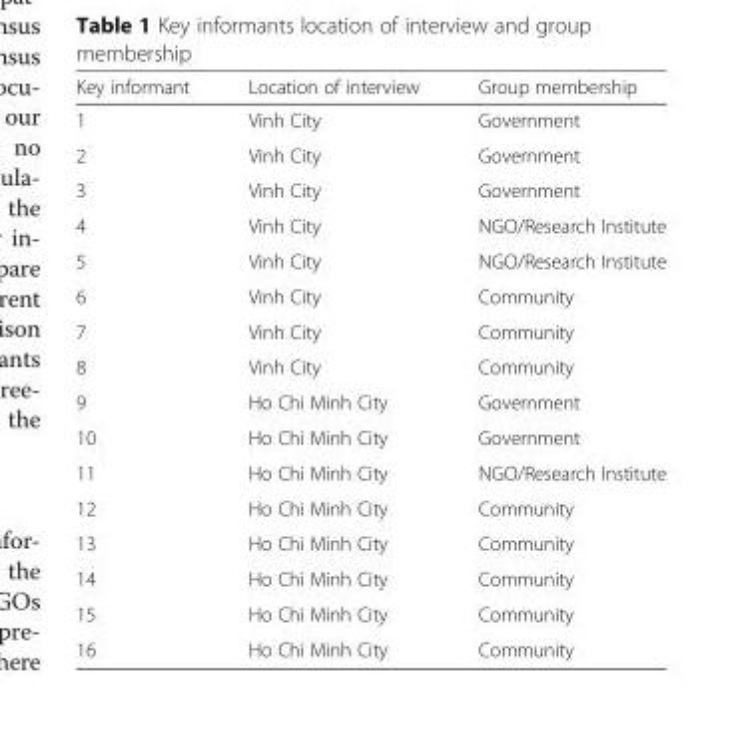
<table><thead><tr><td>Key informant</td><td>Location of interview</td><td>Group membership</td></tr></thead><tbody><tr><td>1</td><td>Vinh City</td><td>Government</td></tr><tr><td>2</td><td>Vinh City</td><td>Government</td></tr><tr><td>3</td><td>Vinh City</td><td>Government</td></tr><tr><td>4</td><td>Vinh City</td><td>NGO/Research Institute</td></tr><tr><td>5</td><td>Vinh City</td><td>NGO/Research Institute</td></tr><tr><td>6</td><td>Vinh City</td><td>Community</td></tr><tr><td>7</td><td>Vinh City</td><td>Community</td></tr><tr><td>8</td><td>Vinh City</td><td>Community</td></tr><tr><td>9</td><td>Ho Chi Minh City</td><td>Government</td></tr><tr><td>10</td><td>Ho Chi Minh City</td><td>Government</td></tr><tr><td>11</td><td>Ho Chi Minh City</td><td>NGO/Research Institute</td></tr><tr><td>12</td><td>Ho Chi Minh City</td><td>Community</td></tr><tr><td>13</td><td>Ho Chi Minh City</td><td>Community</td></tr><tr><td>14</td><td>Ho Chi Minh City</td><td>Community</td></tr><tr><td>15</td><td>Ho Chi Minh City</td><td>Community</td></tr><tr><td>16</td><td>Ho Chi Minh City</td><td>Community</td></tr></tbody></table>